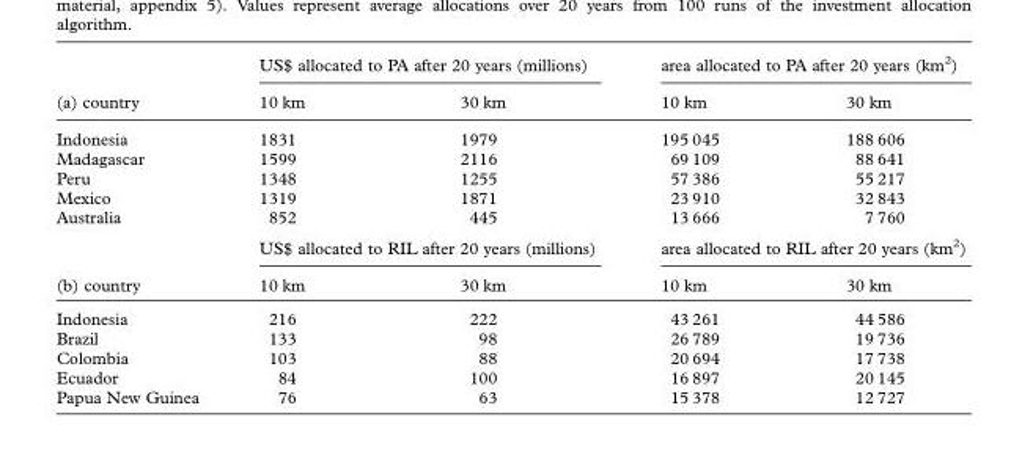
<table><thead><tr><td rowspan="2">(a) country</td><td colspan="2">US$ allocated to PA after 20 years (millions)</td><td colspan="2">area allocated to PA after 20 years (km<sup>2</sup>)</td></tr><tr><td>10 km</td><td>30 km</td><td>10 km</td><td>30 km</td></tr></thead><tbody><tr><td>Indonesia</td><td>1831</td><td>1979</td><td>195 045</td><td>188 606</td></tr><tr><td>Madagascar</td><td>1599</td><td>2116</td><td>69 109</td><td>88 641</td></tr><tr><td>Peru</td><td>1348</td><td>1255</td><td>57 386</td><td>55 217</td></tr><tr><td>Mexico</td><td>1319</td><td>1871</td><td>23 910</td><td>32 843</td></tr><tr><td rowspan="2">Australia</td><td>852</td><td>445</td><td>13 666</td><td>7 760</td></tr><tr><td colspan="2">US$ allocated to RIL after 20 years (millions)</td><td colspan="2">area allocated to RIL after 20 years (km<sup>2</sup>)</td></tr><tr><td>(b) country</td><td>10 km</td><td>30 km</td><td>10 km</td><td>30 km</td></tr><tr><td>Indonesia</td><td>216</td><td>222</td><td>43 261</td><td>44 586</td></tr><tr><td>Brazil</td><td>133</td><td>98</td><td>26 789</td><td>19 736</td></tr><tr><td>Colombia</td><td>103</td><td>88</td><td>20 694</td><td>17 738</td></tr><tr><td>Ecuador</td><td>84</td><td>100</td><td>16 897</td><td>20 145</td></tr><tr><td>Papua New Guinea</td><td>76</td><td>63</td><td>15 378</td><td>12 727</td></tr></tbody></table>